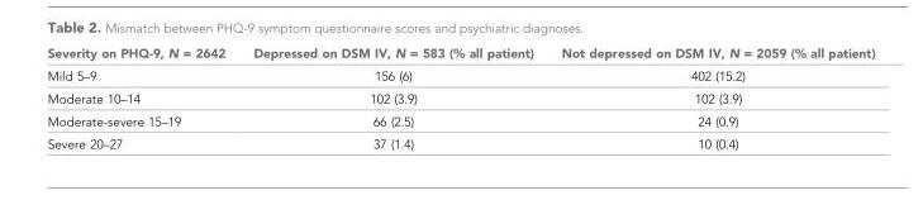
<table><thead><tr><td>Severity on PHQ-9, N = 2642</td><td>Depressed on DSM IV, N = 583 (% all patient)</td><td>Not depressed on DSM IV, N = 2059 (% all patient)</td></tr></thead><tbody><tr><td>Mild 5–9</td><td>156 (6)</td><td>402 (15.2)</td></tr><tr><td>Moderate 10–14</td><td>102 (3.9)</td><td>102 (3.9)</td></tr><tr><td>Moderate-severe 15–19</td><td>66 (2.5)</td><td>24 (0.9)</td></tr><tr><td>Severe 20–27</td><td>37 (1.4)</td><td>10 (0.4)</td></tr></tbody></table>